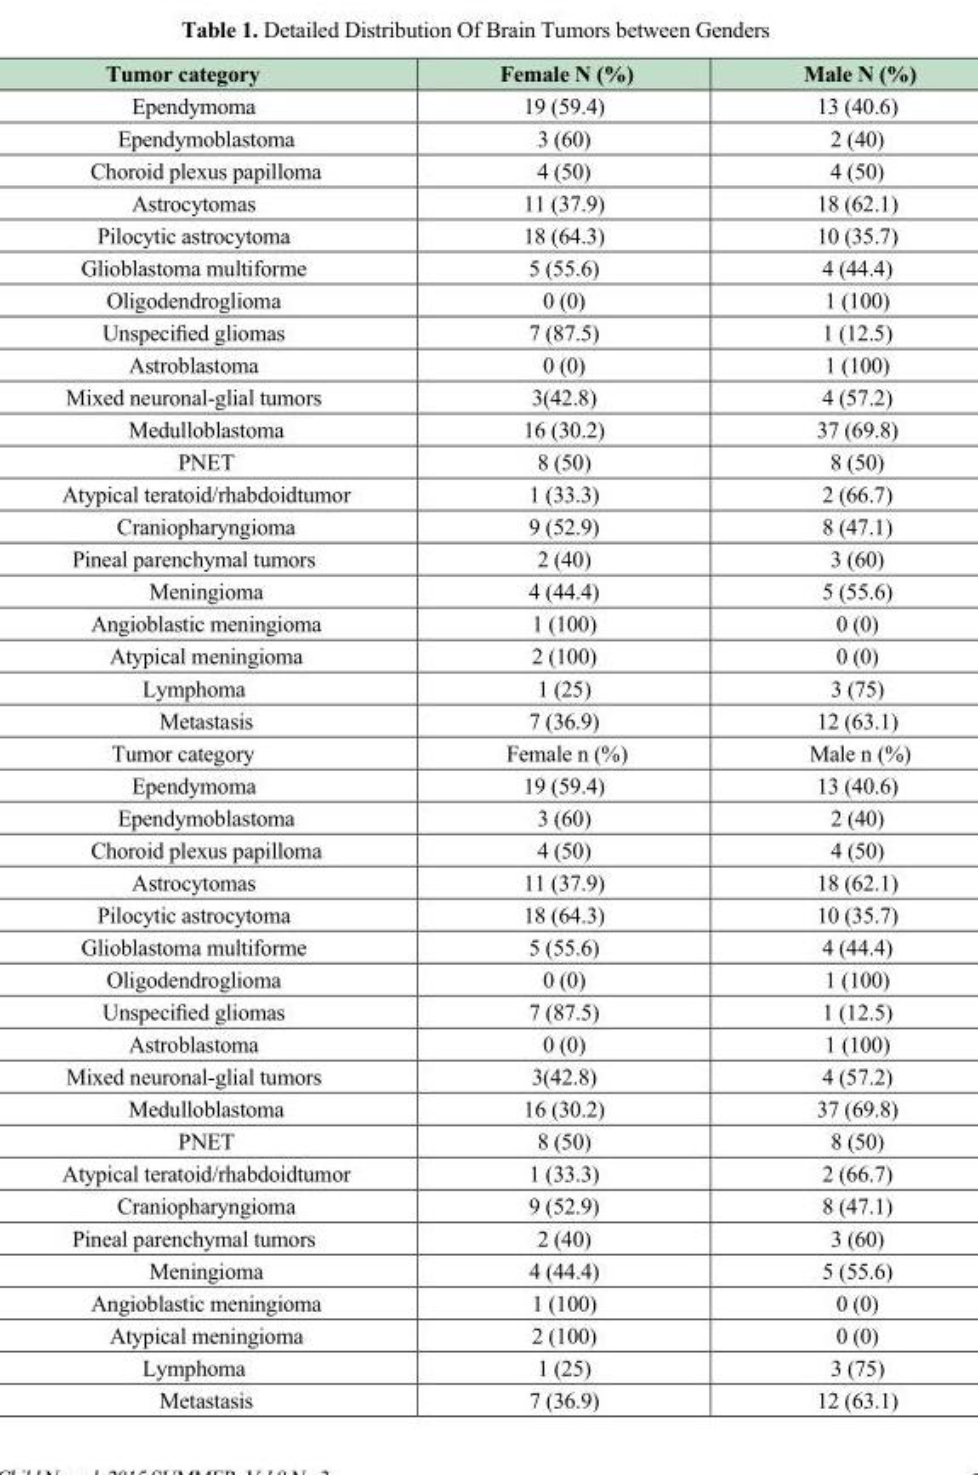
<table><thead><tr><td>Tumor category</td><td>Female N (%)</td><td>Male N (%)</td></tr></thead><tbody><tr><td>Ependymoma</td><td>19 (59.4)</td><td>13 (40.6)</td></tr><tr><td>Ependymoblastoma</td><td>3 (60)</td><td>2 (40)</td></tr><tr><td>Choroid plexus papilloma</td><td>4 (50)</td><td>4 (50)</td></tr><tr><td>Astrocytomas</td><td>11 (37.9)</td><td>18 (62.1)</td></tr><tr><td>Pilocytic astrocytoma</td><td>18 (64.3)</td><td>10 (35.7)</td></tr><tr><td>Glioblastoma multiforme</td><td>5 (55.6)</td><td>4 (44.4)</td></tr><tr><td>Oligodendroglioma</td><td>0 (0)</td><td>1 (100)</td></tr><tr><td>Unspecified gliomas</td><td>7 (87.5)</td><td>1 (12.5)</td></tr><tr><td>Astroblastoma</td><td>0 (0)</td><td>1 (100)</td></tr><tr><td>Mixed neuronal-glial tumors</td><td>3(42.8)</td><td>4 (57.2)</td></tr><tr><td>Medulloblastoma</td><td>16 (30.2)</td><td>37 (69.8)</td></tr><tr><td>PNET</td><td>8 (50)</td><td>8 (50)</td></tr><tr><td>Atypical teratoid/rhabdoidtumor</td><td>1 (33.3)</td><td>2 (66.7)</td></tr><tr><td>Craniopharyngioma</td><td>9 (52.9)</td><td>8 (47.1)</td></tr><tr><td>Pineal parenchymal tumors</td><td>2 (40)</td><td>3 (60)</td></tr><tr><td>Meningioma</td><td>4 (44.4)</td><td>5 (55.6)</td></tr><tr><td>Angioblastic meningioma</td><td>1 (100)</td><td>0 (0)</td></tr><tr><td>Atypical meningioma</td><td>2 (100)</td><td>0 (0)</td></tr><tr><td>Lymphoma</td><td>1 (25)</td><td>3 (75)</td></tr><tr><td>Metastasis</td><td>7 (36.9)</td><td>12 (63.1)</td></tr><tr><td>Tumor category</td><td>Female n (%)</td><td>Male n (%)</td></tr><tr><td>Ependymoma</td><td>19 (59.4)</td><td>13 (40.6)</td></tr><tr><td>Ependymoblastoma</td><td>3 (60)</td><td>2 (40)</td></tr><tr><td>Choroid plexus papilloma</td><td>4 (50)</td><td>4 (50)</td></tr><tr><td>Astrocytomas</td><td>11 (37.9)</td><td>18 (62.1)</td></tr><tr><td>Pilocytic astrocytoma</td><td>18 (64.3)</td><td>10 (35.7)</td></tr><tr><td>Glioblastoma multiforme</td><td>5 (55.6)</td><td>4 (44.4)</td></tr><tr><td>Oligodendroglioma</td><td>0 (0)</td><td>1 (100)</td></tr><tr><td>Unspecified gliomas</td><td>7 (87.5)</td><td>1 (12.5)</td></tr><tr><td>Astroblastoma</td><td>0 (0)</td><td>1 (100)</td></tr><tr><td>Mixed neuronal-glial tumors</td><td>3(42.8)</td><td>4 (57.2)</td></tr><tr><td>Medulloblastoma</td><td>16 (30.2)</td><td>37 (69.8)</td></tr><tr><td>PNET</td><td>8 (50)</td><td>8 (50)</td></tr><tr><td>Atypical teratoid/rhabdoidtumor</td><td>1 (33.3)</td><td>2 (66.7)</td></tr><tr><td>Craniopharyngioma</td><td>9 (52.9)</td><td>8 (47.1)</td></tr><tr><td>Pineal parenchymal tumors</td><td>2 (40)</td><td>3 (60)</td></tr><tr><td>Meningioma</td><td>4 (44.4)</td><td>5 (55.6)</td></tr><tr><td>Angioblastic meningioma</td><td>1 (100)</td><td>0 (0)</td></tr><tr><td>Atypical meningioma</td><td>2 (100)</td><td>0 (0)</td></tr><tr><td>Lymphoma</td><td>1 (25)</td><td>3 (75)</td></tr><tr><td>Metastasis</td><td>7 (36.9)</td><td>12 (63.1)</td></tr></tbody></table>